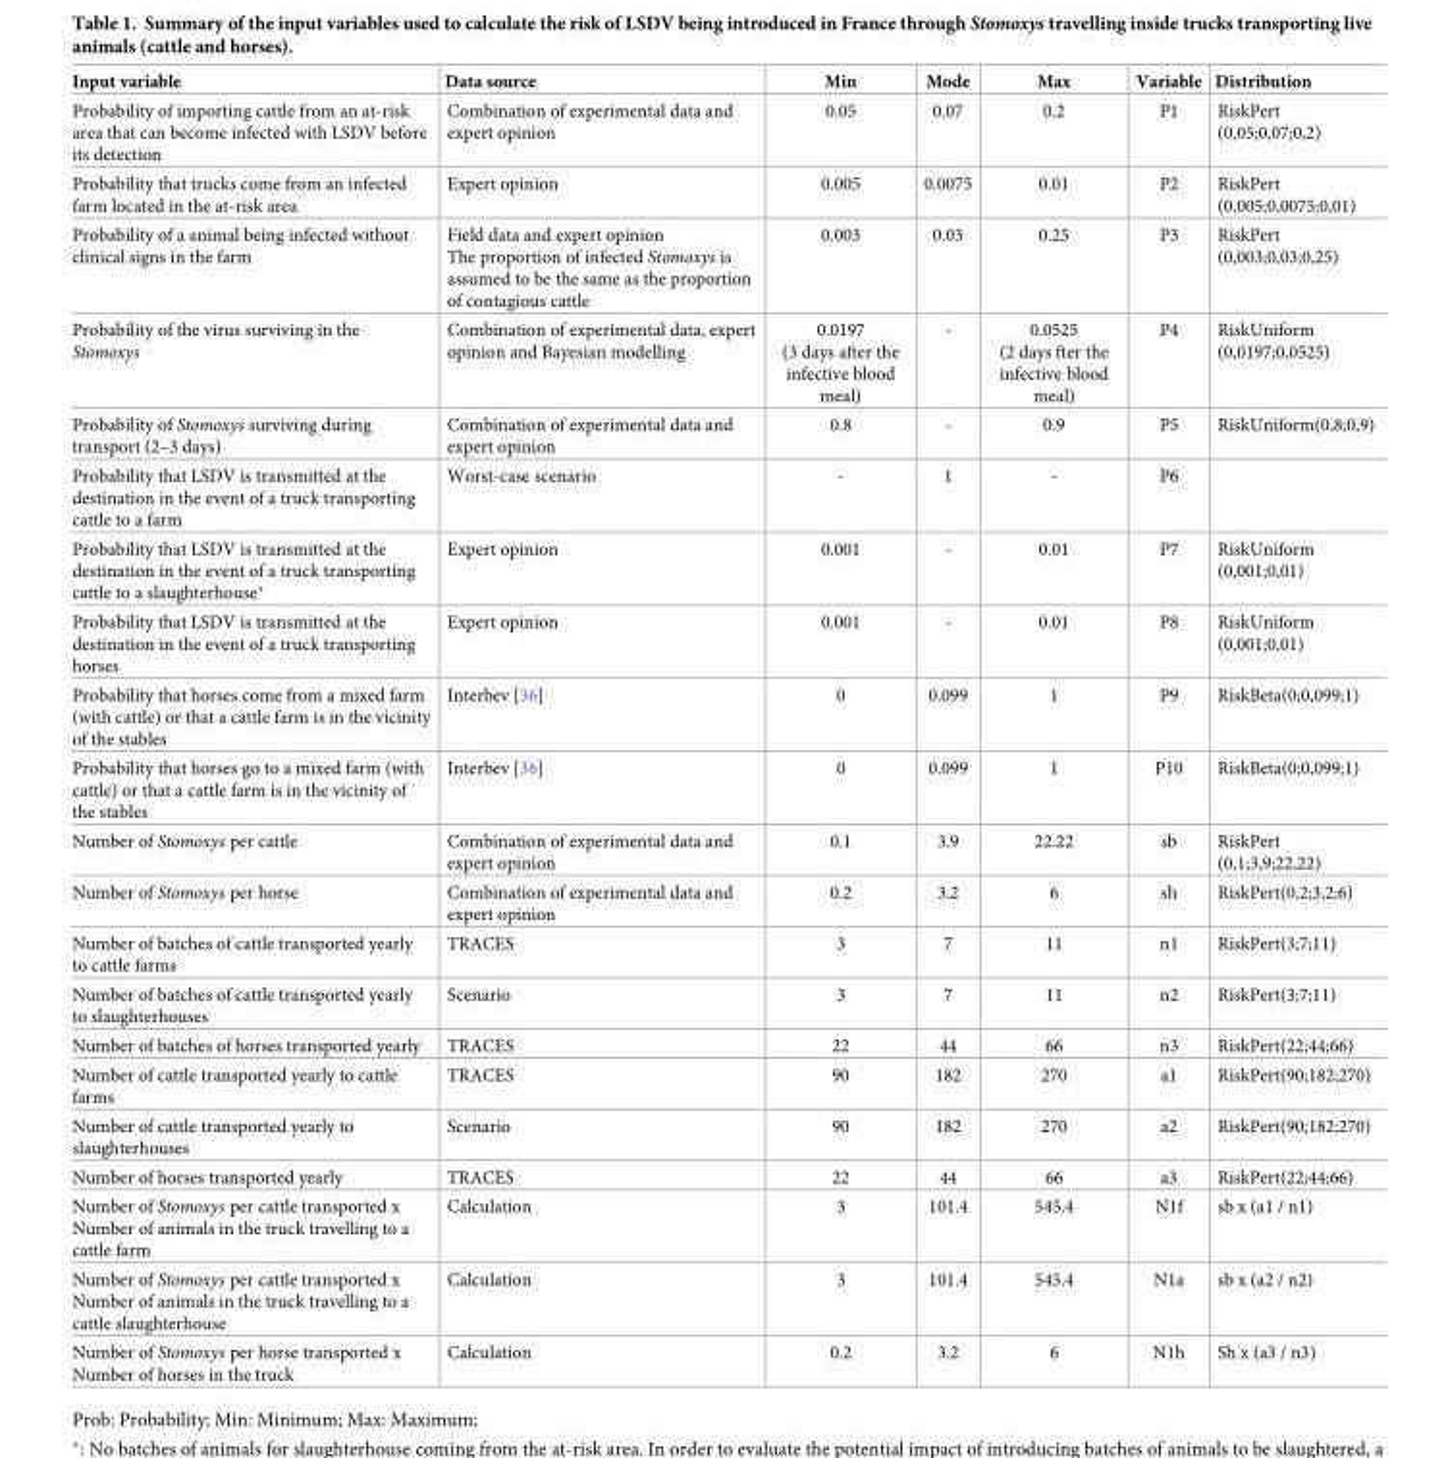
<table><thead><tr><td>Input variable</td><td>Data source</td><td>Min</td><td>Mode</td><td>Max</td><td>Variable</td><td>Distribution</td></tr></thead><tbody><tr><td>Probability of importing cattle from an at-risk area that can become infected with LSDV before its detection</td><td>Combination of experimental data and expert opinion</td><td>0.05</td><td>0.07</td><td>0.2</td><td>P1</td><td>RiskPert (0,05;0,07;0,2)</td></tr><tr><td>Probability that trucks come from an infected farm located in the at-risk area</td><td>Expert opinion</td><td>0.005</td><td>0.0075</td><td>0.01</td><td>P2</td><td>RiskPert (0,005;0,0075;0,01)</td></tr><tr><td>Probability of a animal being infected without clinical signs in the farm</td><td>Field data and expert opinion The proportion of infected Stomoxys is assumed to be the same as the proportion of contagious cattle</td><td>0.003</td><td>0.03</td><td>0.25</td><td>P3</td><td>RiskPert (0,003;0,03;0,25)</td></tr><tr><td>Probability of the virus surviving in the Stomoxys</td><td>Combination of experimental data, expert opinion and Bayesian modelling</td><td>0.0197 (3 days after the infective blood meal)</td><td>-</td><td>0.0525 (2 days fter the infective blood meal)</td><td>P4</td><td>RiskUniform (0,0197;0,0525)</td></tr><tr><td>Probability of Stomoxys surviving during transport (2–3 days)</td><td>Combination of experimental data and expert opinion</td><td>0.8</td><td>-</td><td>0.9</td><td>P5</td><td>RiskUniform(0,8;0,9)</td></tr><tr><td>Probability that LSDV is transmitted at the destination in the event of a truck transporting cattle to a farm</td><td>Worst-case scenario</td><td>-</td><td>1</td><td>-</td><td>P6</td><td></td></tr><tr><td>Probability that LSDV is transmitted at the destination in the event of a truck transporting cattle to a slaughterhouse*</td><td>Expert opinion</td><td>0.001</td><td>-</td><td>0.01</td><td>P7</td><td>RiskUniform (0,001;0,01)</td></tr><tr><td>Probability that LSDV is transmitted at the destination in the event of a truck transporting horses</td><td>Expert opinion</td><td>0.001</td><td>-</td><td>0.01</td><td>P8</td><td>RiskUniform (0,001;0,01)</td></tr><tr><td>Probability that horses come from a mixed farm (with cattle) or that a cattle farm is in the vicinity of the stables</td><td>Interbev [36]</td><td>0</td><td>0.099</td><td>1</td><td>P9</td><td>RiskBeta(0;0,099;1)</td></tr><tr><td>Probability that horses go to a mixed farm (with cattle) or that a cattle farm is in the vicinity of the stables</td><td>Interbev [36]</td><td>0</td><td>0.099</td><td>1</td><td>P10</td><td>RiskBeta(0;0,099;1)</td></tr><tr><td>Number of Stomoxys per cattle</td><td>Combination of experimental data and expert opinion</td><td>0.1</td><td>3.9</td><td>22.22</td><td>sb</td><td>RiskPert (0,1;3,9;22,22)</td></tr><tr><td>Number of Stomoxys per horse</td><td>Combination of experimental data and expert opinion</td><td>0.2</td><td>3.2</td><td>6</td><td>sh</td><td>RiskPert(0,2;3,2;6)</td></tr><tr><td>Number of batches of cattle transported yearly to cattle farms</td><td>TRACES</td><td>3</td><td>7</td><td>11</td><td>n1</td><td>RiskPert(3;7;11)</td></tr><tr><td>Number of batches of cattle transported yearly to slaughterhouses</td><td>Scenario</td><td>3</td><td>7</td><td>11</td><td>n2</td><td>RiskPert(3;7;11)</td></tr><tr><td>Number of batches of horses transported yearly</td><td>TRACES</td><td>22</td><td>44</td><td>66</td><td>n3</td><td>RiskPert(22;44;66)</td></tr><tr><td>Number of cattle transported yearly to cattle farms</td><td>TRACES</td><td>90</td><td>182</td><td>270</td><td>a1</td><td>RiskPert(90;182;270)</td></tr><tr><td>Number of cattle transported yearly to slaughterhouses</td><td>Scenario</td><td>90</td><td>182</td><td>270</td><td>a2</td><td>RiskPert(90;182;270)</td></tr><tr><td>Number of horses transported yearly</td><td>TRACES</td><td>22</td><td>44</td><td>66</td><td>a3</td><td>RiskPert(22;44;66)</td></tr><tr><td>Number of Stomoxys per cattle transported x Number of animals in the truck travelling to a cattle farm</td><td>Calculation</td><td>3</td><td>101.4</td><td>545.4</td><td>N1f</td><td>sb x (a1 / n1)</td></tr><tr><td>Number of Stomoxys per cattle transported x Number of animals in the truck travelling to a cattle slaughterhouse</td><td>Calculation</td><td>3</td><td>101.4</td><td>545.4</td><td>N1a</td><td>sb x (a2 / n2)</td></tr><tr><td>Number of Stomoxys per horse transported x Number of horses in the truck</td><td>Calculation</td><td>0.2</td><td>3.2</td><td>6</td><td>N1h</td><td>Sh x (a3 / n3)</td></tr></tbody></table>